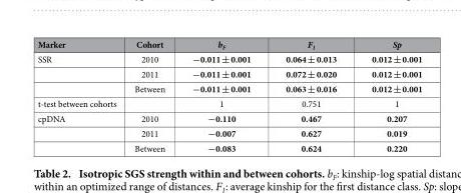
<table><thead><tr><td>Marker</td><td>Cohort</td><td>b<sub>F</sub></td><td>F<sub>1</sub></td><td>Sp</td></tr></thead><tbody><tr><td rowspan="3">SSR</td><td>2010</td><td>−0.011 ± 0.001</td><td>0.064 ± 0.013</td><td>0.012 ± 0.001</td></tr><tr><td>2011</td><td>−0.011 ± 0.001</td><td>0.072 ± 0.020</td><td>0.012 ± 0.001</td></tr><tr><td>Between</td><td>−0.011 ± 0.001</td><td>0.063 ± 0.016</td><td>0.012 ± 0.001</td></tr><tr><td>t-test between cohorts</td><td></td><td>1</td><td>0.751</td><td>1</td></tr><tr><td rowspan="3">cpDNA</td><td>2010</td><td>−0.110</td><td>0.467</td><td>0.207</td></tr><tr><td>2011</td><td>−0.007</td><td>0.627</td><td>0.019</td></tr><tr><td>Between</td><td>−0.083</td><td>0.624</td><td>0.220</td></tr></tbody></table>